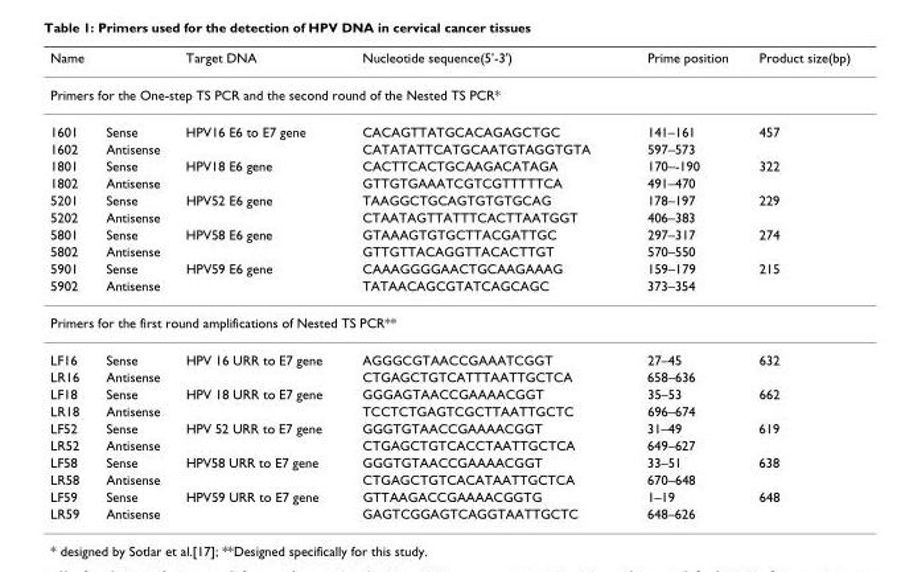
<table><thead><tr><td>Name</td><td></td><td>Target DNA</td><td>Nucleotide sequence(5&#x27;-3&#x27;)</td><td>Prime position</td><td>Product size(bp)</td></tr></thead><tbody><tr><td colspan="6">Primers for the One-step TS PCR and the second round of the Nested TS PCR*</td></tr><tr><td>1601</td><td>Sense</td><td>HPV16 E6 to E7 gene</td><td>CACAGTTATGCACAGAGCTGC</td><td>141–161</td><td>457</td></tr><tr><td>1602</td><td>Antisense</td><td></td><td>CATATATTCATGCAATGTAGGTGTA</td><td>597–573</td><td></td></tr><tr><td>1801</td><td>Sense</td><td>HPV18 E6 gene</td><td>CACTTCACTGCAAGACATAGA</td><td>170–-190</td><td>322</td></tr><tr><td>1802</td><td>Antisense</td><td></td><td>GTTGTGAAATCGTCGTTTTTCA</td><td>491–470</td><td></td></tr><tr><td>5201</td><td>Sense</td><td>HPV52 E6 gene</td><td>TAAGGCTGCAGTGTGTGCAG</td><td>178–197</td><td>229</td></tr><tr><td>5202</td><td>Antisense</td><td></td><td>CTAATAGTTATTTCACTTAATGGT</td><td>406–383</td><td></td></tr><tr><td>5801</td><td>Sense</td><td>HPV58 E6 gene</td><td>GTAAAGTGTGCTTACGATTGC</td><td>297–317</td><td>274</td></tr><tr><td>5802</td><td>Antisense</td><td></td><td>GTTGTTACAGGTTACACTTGT</td><td>570–550</td><td></td></tr><tr><td>5901</td><td>Sense</td><td>HPV59 E6 gene</td><td>CAAAGGGGAACTGCAAGAAAG</td><td>159–179</td><td>215</td></tr><tr><td>5902</td><td>Antisense</td><td></td><td>TATAACAGCGTATCAGCAGC</td><td>373–354</td><td></td></tr><tr><td colspan="6">Primers for the first round amplifications of Nested TS PCR**</td></tr><tr><td>LF16</td><td>Sense</td><td>HPV 16 URR to E7 gene</td><td>AGGGCGTAACCGAAATCGGT</td><td>27–45</td><td>632</td></tr><tr><td>LR16</td><td>Antisense</td><td></td><td>CTGAGCTGTCATTTAATTGCTCA</td><td>658–636</td><td></td></tr><tr><td>LF18</td><td>Sense</td><td>HPV 18 URR to E7 gene</td><td>GGGAGTAACCGAAAACGGT</td><td>35–53</td><td>662</td></tr><tr><td>LR18</td><td>Antisense</td><td></td><td>TCCTCTGAGTCGCTTAATTGCTC</td><td>696–674</td><td></td></tr><tr><td>LF52</td><td>Sense</td><td>HPV 52 URR to E7 gene</td><td>GGGTGTAACCGAAAACGGT</td><td>31–49</td><td>619</td></tr><tr><td>LR52</td><td>Antisense</td><td></td><td>CTGAGCTGTCACCTAATTGCTCA</td><td>649–627</td><td></td></tr><tr><td>LF58</td><td>Sense</td><td>HPV58 URR to E7 gene</td><td>GGGTGTAACCGAAAACGGT</td><td>33–51</td><td>638</td></tr><tr><td>LR58</td><td>Antisense</td><td></td><td>CTGAGCTGTCACATAATTGCTCA</td><td>670–648</td><td></td></tr><tr><td>LF59</td><td>Sense</td><td>HPV59 URR to E7 gene</td><td>GTTAAGACCGAAAACGGTG</td><td>1–19</td><td>648</td></tr><tr><td>LR59</td><td>Antisense</td><td></td><td>GAGTCGGAGTCAGGTAATTGCTC</td><td>648–626</td><td></td></tr></tbody></table>